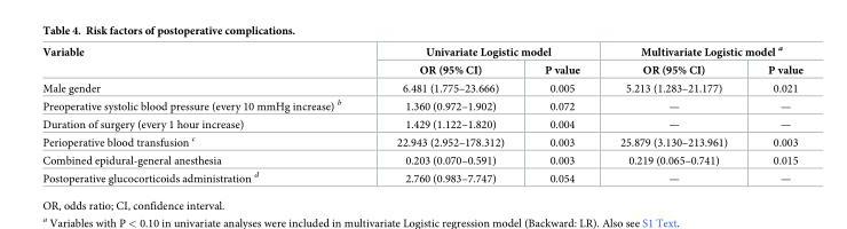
<table><thead><tr><td rowspan="2">Variable</td><td colspan="2">Univariate Logistic model</td><td colspan="2">Multivariate Logistic model <sup>a</sup></td></tr><tr><td>OR (95% CI)</td><td>P value</td><td>OR (95% CI)</td><td>P value</td></tr></thead><tbody><tr><td>Male gender</td><td>6.481 (1.775–23.666)</td><td>0.005</td><td>5.213 (1.283–21.177)</td><td>0.021</td></tr><tr><td>Preoperative systolic blood pressure (every 10 mmHg increase) <sup>b</sup></td><td>1.360 (0.972–1.902)</td><td>0.072</td><td>—</td><td>—</td></tr><tr><td>Duration of surgery (every 1 hour increase)</td><td>1.429 (1.122–1.820)</td><td>0.004</td><td>—</td><td>—</td></tr><tr><td>Perioperative blood transfusion <sup>c</sup></td><td>22.943 (2.952–178.312)</td><td>0.003</td><td>25.879 (3.130–213.961)</td><td>0.003</td></tr><tr><td>Combined epidural-general anesthesia</td><td>0.203 (0.070–0.591)</td><td>0.003</td><td>0.219 (0.065–0.741)</td><td>0.015</td></tr><tr><td>Postoperative glucocorticoids administration <sup>d</sup></td><td>2.760 (0.983–7.747)</td><td>0.054</td><td>—</td><td>—</td></tr></tbody></table>